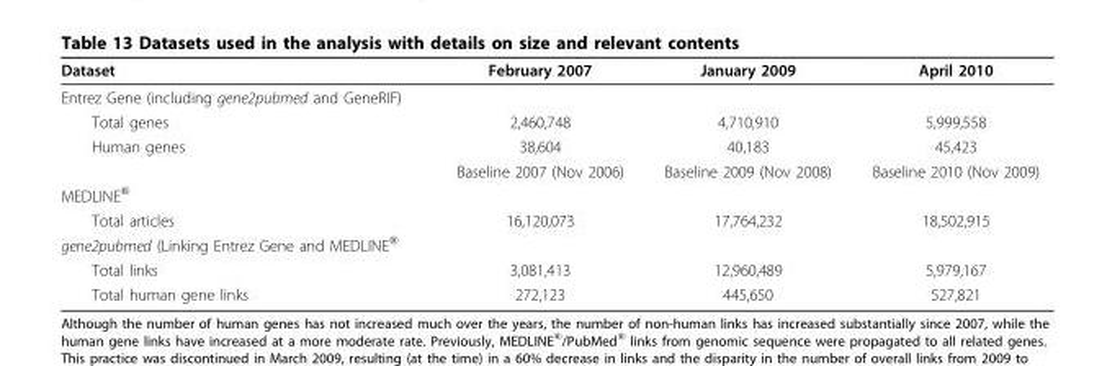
<table><thead><tr><td>Dataset</td><td>February 2007</td><td>January 2009</td><td>April 2010</td></tr></thead><tbody><tr><td colspan="4">Entrez Gene (including gene2pubmed and GeneRIF)</td></tr><tr><td>Total genes</td><td>2,460,748</td><td>4,710,910</td><td>5,999,558</td></tr><tr><td rowspan="2">Human genes</td><td>38,604</td><td>40,183</td><td>45,423</td></tr><tr><td>Baseline 2007 (Nov 2006)</td><td>Baseline 2009 (Nov 2008)</td><td>Baseline 2010 (Nov 2009)</td></tr><tr><td colspan="4">MEDLINE<sup>®</sup></td></tr><tr><td>Total articles</td><td>16,120,073</td><td>17,764,232</td><td>18,502,915</td></tr><tr><td colspan="4">gene2pubmed (Linking Entrez Gene and MEDLINE<sup>®</sup></td></tr><tr><td>Total links</td><td>3,081,413</td><td>12,960,489</td><td>5,979,167</td></tr><tr><td>Total human gene links</td><td>272,123</td><td>445,650</td><td>527,821</td></tr></tbody></table>